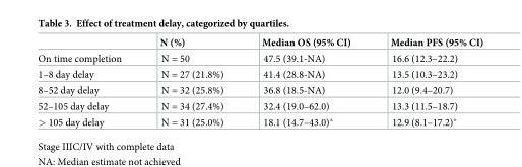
<table><thead><tr><td></td><td>N (%)</td><td>Median OS (95% CI)</td><td>Median PFS (95% CI)</td></tr></thead><tbody><tr><td>On time completion</td><td>N = 50</td><td>47.5 (39.1-NA)</td><td>16.6 (12.3–22.2)</td></tr><tr><td>1–8 day delay</td><td>N = 27 (21.8%)</td><td>41.4 (28.8-NA)</td><td>13.5 (10.3–23.2)</td></tr><tr><td>8–52 day delay</td><td>N = 32 (25.8%)</td><td>36.8 (18.5-NA)</td><td>12.0 (9.4–20.7)</td></tr><tr><td>52–105 day delay</td><td>N = 34 (27.4%)</td><td>32.4 (19.0–62.0)</td><td>13.3 (11.5–18.7)</td></tr><tr><td>&gt; 105 day delay</td><td>N = 31 (25.0%)</td><td>18.1 (14.7–43.0)*</td><td>12.9 (8.1–17.2)*</td></tr></tbody></table>